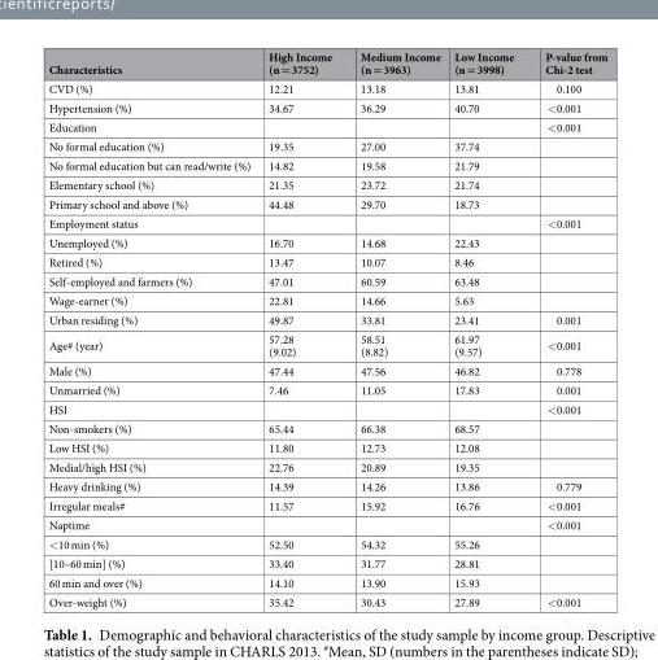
<table><thead><tr><td>Characteristics</td><td>High Income (n = 3752)</td><td>Medium Income (n = 3963)</td><td>Low Income (n = 3998)</td><td>P-value from Chi-2 test</td></tr></thead><tbody><tr><td>CVD (%)</td><td>12.21</td><td>13.18</td><td>13.81</td><td>0.100</td></tr><tr><td>Hypertension (%)</td><td>34.67</td><td>36.29</td><td>40.70</td><td>&lt;0.001</td></tr><tr><td>Education</td><td></td><td></td><td></td><td>&lt;0.001</td></tr><tr><td>No formal education (%)</td><td>19.35</td><td>27.00</td><td>37.74</td><td></td></tr><tr><td>No formal education but can read/write (%)</td><td>14.82</td><td>19.58</td><td>21.79</td><td></td></tr><tr><td>Elementary school (%)</td><td>21.35</td><td>23.72</td><td>21.74</td><td></td></tr><tr><td>Primary school and above (%)</td><td>44.48</td><td>29.70</td><td>18.73</td><td></td></tr><tr><td>Employment status</td><td></td><td></td><td></td><td>&lt;0.001</td></tr><tr><td>Unemployed (%)</td><td>16.70</td><td>14.68</td><td>22.43</td><td></td></tr><tr><td>Retired (%)</td><td>13.47</td><td>10.07</td><td>8.46</td><td></td></tr><tr><td>Self-employed and farmers (%)</td><td>47.01</td><td>60.59</td><td>63.48</td><td></td></tr><tr><td>Wage-earner (%)</td><td>22.81</td><td>14.66</td><td>5.63</td><td></td></tr><tr><td>Urban residing (%)</td><td>49.87</td><td>33.81</td><td>23.41</td><td>0.001</td></tr><tr><td>Age# (year)</td><td>57.28 (9.02)</td><td>58.51 (8.82)</td><td>61.97 (9.57)</td><td>&lt;0.001</td></tr><tr><td>Male (%)</td><td>47.44</td><td>47.56</td><td>46.82</td><td>0.778</td></tr><tr><td>Unmarried (%)</td><td>7.46</td><td>11.05</td><td>17.83</td><td>0.001</td></tr><tr><td>HSI</td><td></td><td></td><td></td><td>&lt;0.001</td></tr><tr><td>Non-smokers (%)</td><td>65.44</td><td>66.38</td><td>68.57</td><td></td></tr><tr><td>Low HSI (%)</td><td>11.80</td><td>12.73</td><td>12.08</td><td></td></tr><tr><td>Medial/high HSI (%)</td><td>22.76</td><td>20.89</td><td>19.35</td><td></td></tr><tr><td>Heavy drinking (%)</td><td>14.39</td><td>14.26</td><td>13.86</td><td>0.779</td></tr><tr><td>Irregular meals#</td><td>11.57</td><td>15.92</td><td>16.76</td><td>&lt;0.001</td></tr><tr><td>Naptime</td><td></td><td></td><td></td><td>&lt;0.001</td></tr><tr><td>&lt;10 min (%)</td><td>52.50</td><td>54.32</td><td>55.26</td><td></td></tr><tr><td>[10–60 min] (%)</td><td>33.40</td><td>31.77</td><td>28.81</td><td></td></tr><tr><td>60 min and over (%)</td><td>14.10</td><td>13.90</td><td>15.93</td><td></td></tr><tr><td>Over-weight (%)</td><td>35.42</td><td>30.43</td><td>27.89</td><td>&lt;0.001</td></tr></tbody></table>